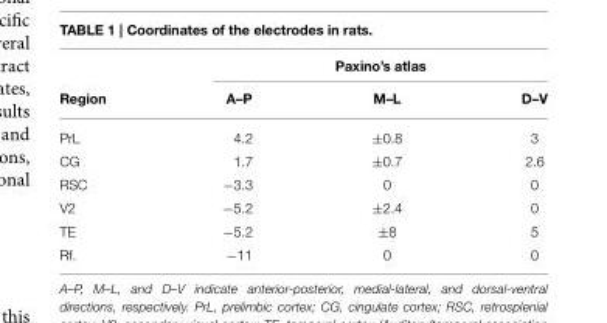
<table><thead><tr><td rowspan="2">Region</td><td colspan="3">Paxino’s atlas</td></tr><tr><td>A–P</td><td>M–L</td><td>D–V</td></tr></thead><tbody><tr><td>PrL</td><td>4.2</td><td>±0.8</td><td>3</td></tr><tr><td>CG</td><td>1.7</td><td>±0.7</td><td>2.6</td></tr><tr><td>RSC</td><td>−3.3</td><td>0</td><td>0</td></tr><tr><td>V2</td><td>−5.2</td><td>±2.4</td><td>0</td></tr><tr><td>TE</td><td>−5.2</td><td>±8</td><td>5</td></tr><tr><td>Rf.</td><td>−11</td><td>0</td><td>0</td></tr></tbody></table>